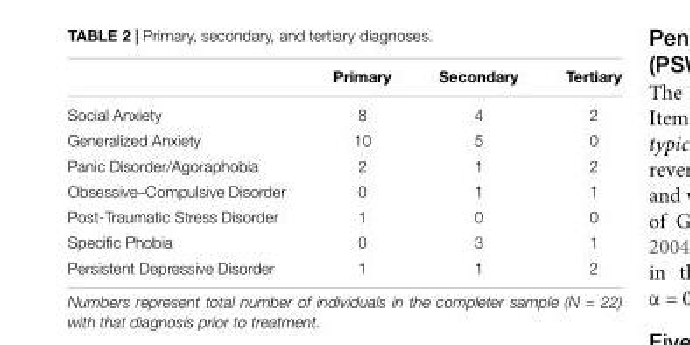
<table><thead><tr><td></td><td>Primary</td><td>Secondary</td><td>Tertiary</td></tr></thead><tbody><tr><td>Social Anxiety</td><td>8</td><td>4</td><td>2</td></tr><tr><td>Generalized Anxiety</td><td>10</td><td>5</td><td>0</td></tr><tr><td>Panic Disorder/Agoraphobia</td><td>2</td><td>1</td><td>2</td></tr><tr><td>Obsessive–Compulsive Disorder</td><td>0</td><td>1</td><td>1</td></tr><tr><td>Post-Traumatic Stress Disorder</td><td>1</td><td>0</td><td>0</td></tr><tr><td>Specific Phobia</td><td>0</td><td>3</td><td>1</td></tr><tr><td>Persistent Depressive Disorder</td><td>1</td><td>1</td><td>2</td></tr></tbody></table>